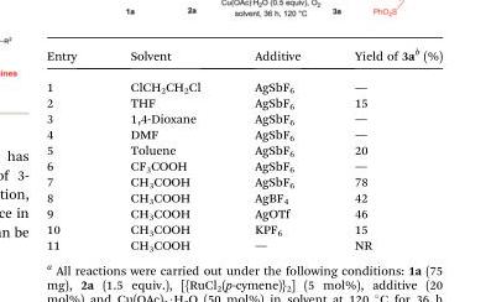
<table><thead><tr><td>Entry</td><td>Solvent</td><td>Additive</td><td>Yield of 3a<sup>b</sup> (%)</td></tr></thead><tbody><tr><td>1</td><td>ClCH<sub>2</sub>CH<sub>2</sub>Cl</td><td>AgSbF<sub>6</sub></td><td>—</td></tr><tr><td>2</td><td>THF</td><td>AgSbF<sub>6</sub></td><td>15</td></tr><tr><td>3</td><td>1,4-Dioxane</td><td>AgSbF<sub>6</sub></td><td>—</td></tr><tr><td>4</td><td>DMF</td><td>AgSbF<sub>6</sub></td><td>—</td></tr><tr><td>5</td><td>Toluene</td><td>AgSbF<sub>6</sub></td><td>20</td></tr><tr><td>6</td><td>CF<sub>3</sub>COOH</td><td>AgSbF<sub>6</sub></td><td>—</td></tr><tr><td>7</td><td>CH<sub>3</sub>COOH</td><td>AgSbF<sub>6</sub></td><td>78</td></tr><tr><td>8</td><td>CH<sub>3</sub>COOH</td><td>AgBF<sub>4</sub></td><td>42</td></tr><tr><td>9</td><td>CH<sub>3</sub>COOH</td><td>AgOTf</td><td>46</td></tr><tr><td>10</td><td>CH<sub>3</sub>COOH</td><td>KPF<sub>6</sub></td><td>15</td></tr><tr><td>11</td><td>CH<sub>3</sub>COOH</td><td>—</td><td>NR</td></tr></tbody></table>